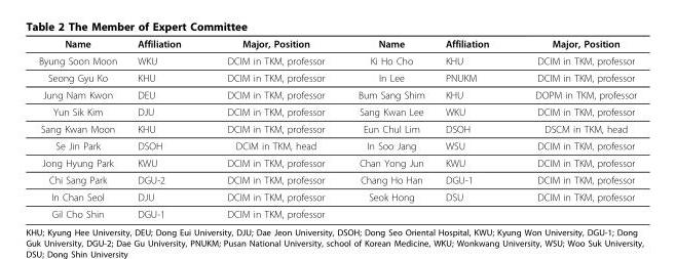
<table><thead><tr><td>Name</td><td>Affiliation</td><td>Major, Position</td><td>Name</td><td>Affiliation</td><td>Major, Position</td></tr></thead><tbody><tr><td>Byung Soon Moon</td><td>WKU</td><td>DCIM in TKM, professor</td><td>Ki Ho Cho</td><td>KHU</td><td>DCIM in TKM, professor</td></tr><tr><td>Seong Gyu Ko</td><td>KHU</td><td>DCIM in TKM, professor</td><td>In Lee</td><td>PNUKM</td><td>DCIM in TKM, professor</td></tr><tr><td>Jung Nam Kwon</td><td>DEU</td><td>DCIM in TKM, professor</td><td>Bum Sang Shim</td><td>KHU</td><td>DOPM in TKM, professor</td></tr><tr><td>Yun Sik Kim</td><td>DJU</td><td>DCIM in TKM, professor</td><td>Sang Kwan Lee</td><td>WKU</td><td>DCIM in TKM, professor</td></tr><tr><td>Sang Kwan Moon</td><td>KHU</td><td>DCIM in TKM, professor</td><td>Eun Chul Lim</td><td>DSOH</td><td>DSCM in TKM, head</td></tr><tr><td>Se Jin Park</td><td>DSOH</td><td>DCIM in TKM, head</td><td>In Soo Jang</td><td>WSU</td><td>DCIM in TKM, professor</td></tr><tr><td>Jong Hyung Park</td><td>KWU</td><td>DCIM in TKM, professor</td><td>Chan Yong Jun</td><td>KWU</td><td>DCIM in TKM, professor</td></tr><tr><td>Chi Sang Park</td><td>DGU-2</td><td>DCIM in TKM, professor</td><td>Chang Ho Han</td><td>DGU-1</td><td>DCIM in TKM, professor</td></tr><tr><td>In Chan Seol</td><td>DJU</td><td>DCIM in TKM, professor</td><td>Seok Hong</td><td>DSU</td><td>DCIM in TKM, professor</td></tr><tr><td>Gil Cho Shin</td><td>DGU-1</td><td>DCIM in TKM, professor</td><td></td><td></td><td></td></tr></tbody></table>